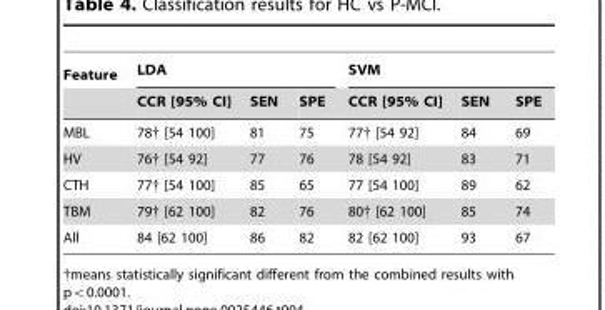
<table><thead><tr><td rowspan="2">Feature</td><td colspan="3">LDA</td><td colspan="3">SVM</td></tr><tr><td>CCR [95% CI]</td><td>SEN</td><td>SPE</td><td>CCR [95% CI]</td><td>SEN</td><td>SPE</td></tr></thead><tbody><tr><td>MBL</td><td>78† [54 100]</td><td>81</td><td>75</td><td>77† [54 92]</td><td>84</td><td>69</td></tr><tr><td>HV</td><td>76† [54 92]</td><td>77</td><td>76</td><td>78 [54 92]</td><td>83</td><td>71</td></tr><tr><td>CTH</td><td>77† [54 100]</td><td>85</td><td>65</td><td>77 [54 100]</td><td>89</td><td>62</td></tr><tr><td>TBM</td><td>79† [62 100]</td><td>82</td><td>76</td><td>80† [62 100]</td><td>85</td><td>74</td></tr><tr><td>All</td><td>84 [62 100]</td><td>86</td><td>82</td><td>82 [62 100]</td><td>93</td><td>67</td></tr></tbody></table>